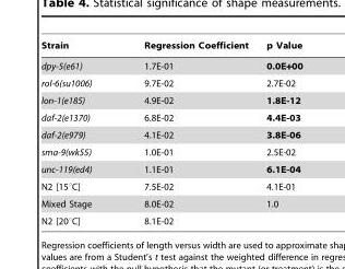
<table><thead><tr><td>Strain</td><td>Regression Coefficient</td><td>p Value</td></tr></thead><tbody><tr><td>dpy-5(e61)</td><td>1.7E-01</td><td>0.0E+00</td></tr><tr><td>rol-6(su1006)</td><td>9.7E-02</td><td>2.7E-02</td></tr><tr><td>lon-1(e185)</td><td>4.9E-02</td><td>1.8E-12</td></tr><tr><td>daf-2(e1370)</td><td>6.8E-02</td><td>4.4E-03</td></tr><tr><td>daf-2(e979)</td><td>4.1E-02</td><td>3.8E-06</td></tr><tr><td>sma-9(wk55)</td><td>1.0E-01</td><td>2.5E-02</td></tr><tr><td>unc-119(ed4)</td><td>1.1E-01</td><td>6.1E-04</td></tr><tr><td>N2 [15°C]</td><td>7.5E-02</td><td>4.1E-01</td></tr><tr><td>Mixed Stage</td><td>8.0E-02</td><td>1.0</td></tr><tr><td>N2 [20°C]</td><td>8.1E-02</td><td></td></tr></tbody></table>